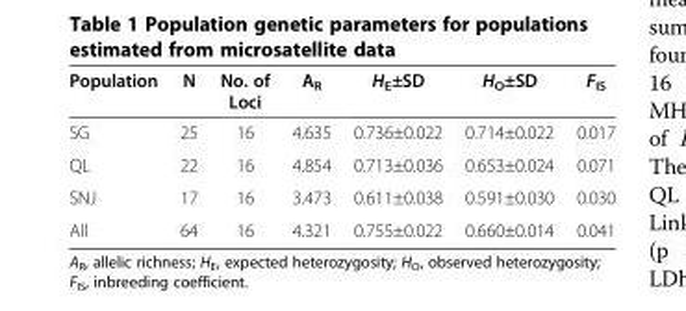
<table><thead><tr><td>Population</td><td>N</td><td>No. of Loci</td><td>A<sub>R</sub></td><td>H<sub>E</sub>±SD</td><td>H<sub>O</sub>±SD</td><td>F<sub>IS</sub></td></tr></thead><tbody><tr><td>SG</td><td>25</td><td>16</td><td>4.635</td><td>0.736±0.022</td><td>0.714±0.022</td><td>0.017</td></tr><tr><td>QL</td><td>22</td><td>16</td><td>4.854</td><td>0.713±0.036</td><td>0.653±0.024</td><td>0.071</td></tr><tr><td>SNJ</td><td>17</td><td>16</td><td>3.473</td><td>0.611±0.038</td><td>0.591±0.030</td><td>0.030</td></tr><tr><td>All</td><td>64</td><td>16</td><td>4.321</td><td>0.755±0.022</td><td>0.660±0.014</td><td>0.041</td></tr></tbody></table>